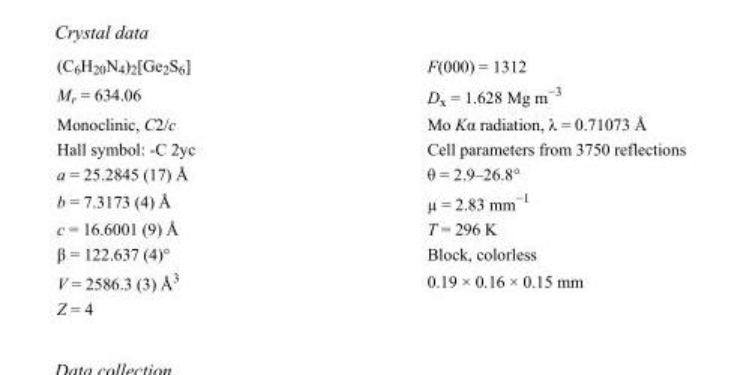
<table><tbody><tr><td>(C<sub>6</sub>H<sub>20</sub>N<sub>4</sub>)<sub>2</sub>[Ge<sub>2</sub>S<sub>6</sub>]</td><td>F(000) = 1312</td></tr><tr><td>M<sub>r</sub> = 634.06</td><td>D<sub>x</sub> = 1.628 Mg m<sup>−3</sup></td></tr><tr><td>Monoclinic, C2/c</td><td>Mo Kα radiation, λ = 0.71073 Å</td></tr><tr><td>Hall symbol: -C 2yc</td><td>Cell parameters from 3750 reflections</td></tr><tr><td>a = 25.2845 (17) Å</td><td>θ = 2.9–26.8°</td></tr><tr><td>b = 7.3173 (4) Å</td><td>µ = 2.83 mm<sup>−1</sup></td></tr><tr><td>c = 16.6001 (9) Å</td><td>T = 296 K</td></tr><tr><td>β = 122.637 (4)°</td><td>Block, colorless</td></tr><tr><td>V = 2586.3 (3) Å<sup>3</sup></td><td>0.19 × 0.16 × 0.15 mm</td></tr><tr><td>Z = 4</td><td></td></tr></tbody></table>